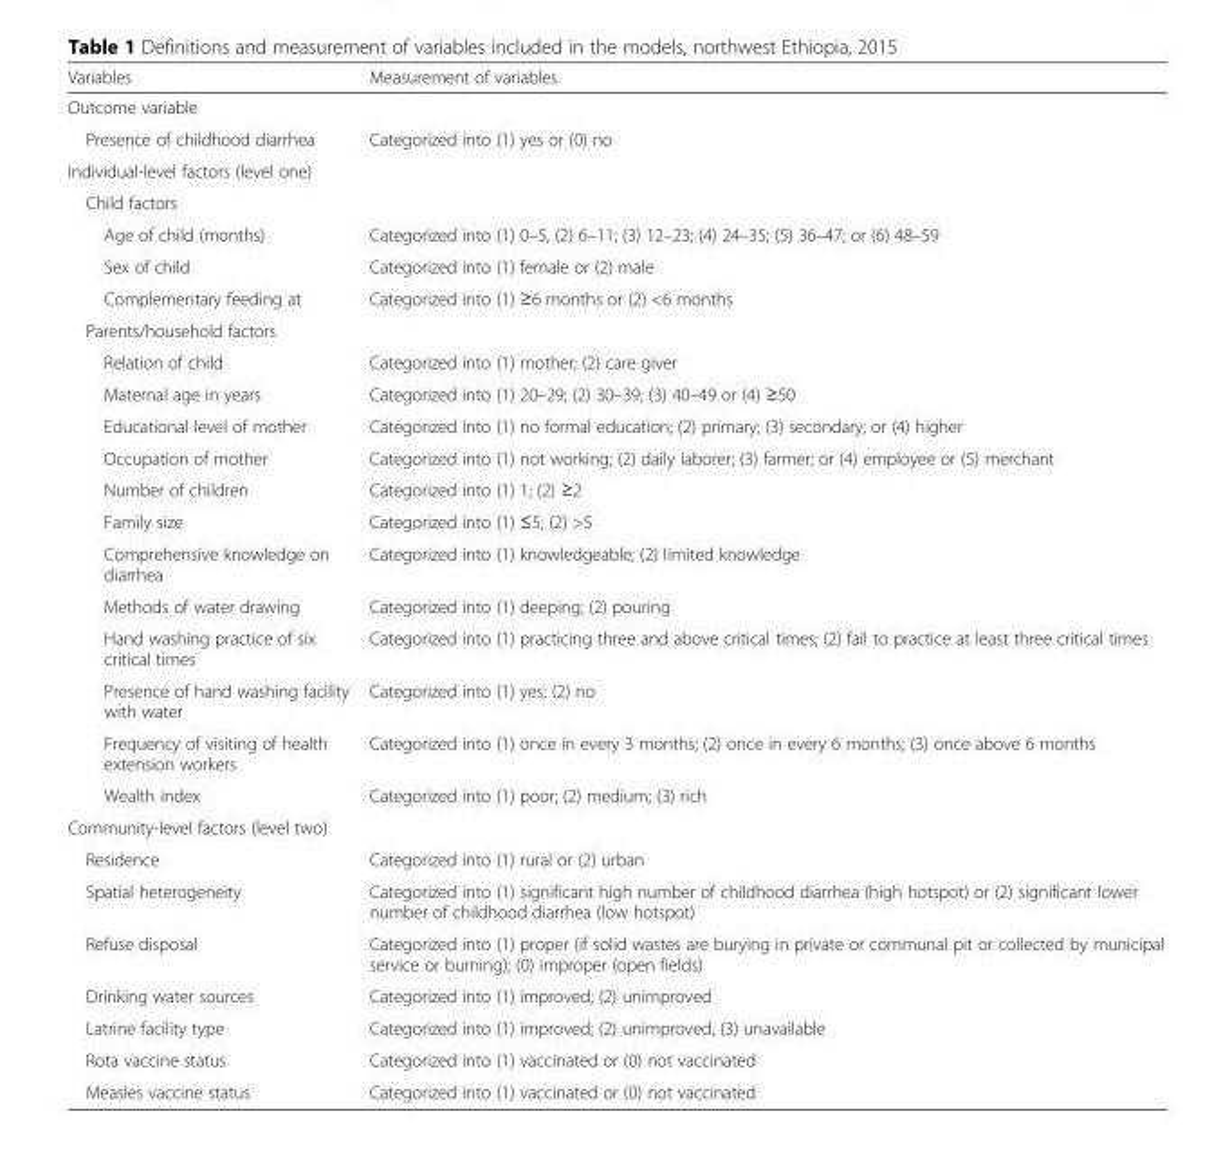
<table><thead><tr><td>Variables</td><td>Measurement of variables</td></tr></thead><tbody><tr><td colspan="2">Outcome variable</td></tr><tr><td>Presence of childhood diarrhea</td><td>Categorized into (1) yes or (0) no</td></tr><tr><td colspan="2">Individual-level factors (level one)</td></tr><tr><td colspan="2">Child factors</td></tr><tr><td>Age of child (months)</td><td>Categorized into (1) 0–5, (2) 6–11; (3) 12–23; (4) 24–35; (5) 36–47; or (6) 48–59</td></tr><tr><td>Sex of child</td><td>Categorized into (1) female or (2) male</td></tr><tr><td>Complementary feeding at</td><td>Categorized into (1) ≥6 months or (2) &lt;6 months</td></tr><tr><td colspan="2">Parents/household factors</td></tr><tr><td>Relation of child</td><td>Categorized into (1) mother; (2) care giver</td></tr><tr><td>Maternal age in years</td><td>Categorized into (1) 20–29; (2) 30–39; (3) 40–49 or (4) ≥50</td></tr><tr><td>Educational level of mother</td><td>Categorized into (1) no formal education; (2) primary; (3) secondary; or (4) higher</td></tr><tr><td>Occupation of mother</td><td>Categorized into (1) not working; (2) daily laborer; (3) farmer; or (4) employee or (5) merchant</td></tr><tr><td>Number of children</td><td>Categorized into (1) 1; (2) ≥2</td></tr><tr><td>Family size</td><td>Categorized into (1) ≤5; (2) &gt;5</td></tr><tr><td>Comprehensive knowledge on diarrhea</td><td>Categorized into (1) knowledgeable; (2) limited knowledge</td></tr><tr><td>Methods of water drawing</td><td>Categorized into (1) deeping; (2) pouring</td></tr><tr><td>Hand washing practice of six critical times</td><td>Categorized into (1) practicing three and above critical times; (2) fail to practice at least three critical times</td></tr><tr><td>Presence of hand washing facility with water</td><td>Categorized into (1) yes; (2) no</td></tr><tr><td>Frequency of visiting of health extension workers</td><td>Categorized into (1) once in every 3 months; (2) once in every 6 months; (3) once above 6 months</td></tr><tr><td>Wealth index</td><td>Categorized into (1) poor; (2) medium; (3) rich</td></tr><tr><td colspan="2">Community-level factors (level two)</td></tr><tr><td>Residence</td><td>Categorized into (1) rural or (2) urban</td></tr><tr><td>Spatial heterogeneity</td><td>Categorized into (1) significant high number of childhood diarrhea (high hotspot) or (2) significant lower number of childhood diarrhea (low hotspot)</td></tr><tr><td>Refuse disposal</td><td>Categorized into (1) proper (if solid wastes are burying in private or communal pit or collected by municipal service or burning); (0) improper (open fields)</td></tr><tr><td>Drinking water sources</td><td>Categorized into (1) improved; (2) unimproved</td></tr><tr><td>Latrine facility type</td><td>Categorized into (1) improved; (2) unimproved, (3) unavailable</td></tr><tr><td>Rota vaccine status</td><td>Categorized into (1) vaccinated or (0) not vaccinated</td></tr><tr><td>Measles vaccine status</td><td>Categorized into (1) vaccinated or (0) not vaccinated</td></tr></tbody></table>